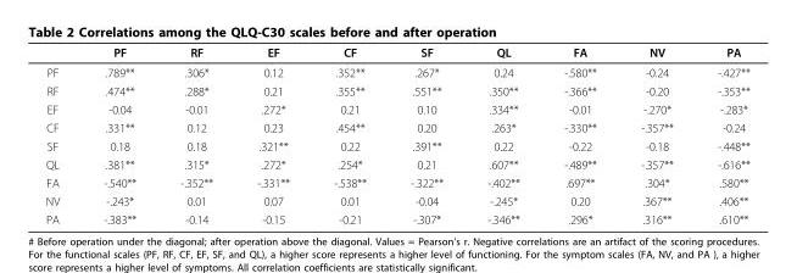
<table><thead><tr><td></td><td>PF</td><td>RF</td><td>EF</td><td>CF</td><td>SF</td><td>QL</td><td>FA</td><td>NV</td><td>PA</td></tr></thead><tbody><tr><td>PF</td><td>.789**</td><td>.306*</td><td>0.12</td><td>.352**</td><td>.267*</td><td>0.24</td><td>-.580**</td><td>-0.24</td><td>-.427**</td></tr><tr><td>RF</td><td>.474**</td><td>.288*</td><td>0.21</td><td>.355**</td><td>.551**</td><td>.350**</td><td>-.366**</td><td>-0.20</td><td>-.353**</td></tr><tr><td>EF</td><td>-0.04</td><td>-0.01</td><td>.272*</td><td>0.21</td><td>0.10</td><td>.334**</td><td>-0.01</td><td>-.270*</td><td>-.283*</td></tr><tr><td>CF</td><td>.331**</td><td>0.12</td><td>0.23</td><td>.454**</td><td>0.20</td><td>.263*</td><td>-.330**</td><td>-.357**</td><td>-0.24</td></tr><tr><td>SF</td><td>0.18</td><td>0.18</td><td>.321**</td><td>0.22</td><td>.391**</td><td>0.22</td><td>-0.22</td><td>-0.18</td><td>-.448**</td></tr><tr><td>QL</td><td>.381**</td><td>.315*</td><td>.272*</td><td>.254*</td><td>0.21</td><td>.607**</td><td>-.489**</td><td>-.357**</td><td>-.616**</td></tr><tr><td>FA</td><td>-.540**</td><td>-.352**</td><td>-.331**</td><td>-.538**</td><td>-.322**</td><td>-.402**</td><td>.697**</td><td>.304*</td><td>.580**</td></tr><tr><td>NV</td><td>-.243*</td><td>0.01</td><td>0.07</td><td>0.01</td><td>-0.04</td><td>-.245*</td><td>0.20</td><td>.367**</td><td>.406**</td></tr><tr><td>PA</td><td>-.383**</td><td>-0.14</td><td>-0.15</td><td>-0.21</td><td>-.307*</td><td>-.346**</td><td>.296*</td><td>.316**</td><td>.610**</td></tr></tbody></table>